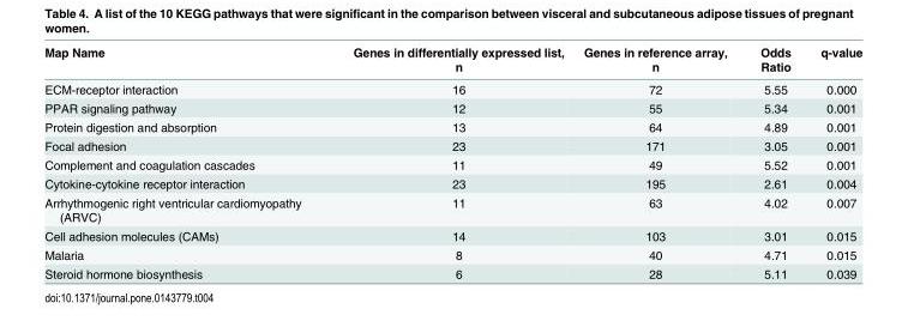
<table><thead><tr><td>Map Name</td><td>Genes in differentially expressed list, n</td><td>Genes in reference array, n</td><td>Odds Ratio</td><td>q-value</td></tr></thead><tbody><tr><td>ECM-receptor interaction</td><td>16</td><td>72</td><td>5.55</td><td>0.000</td></tr><tr><td>PPAR signaling pathway</td><td>12</td><td>55</td><td>5.34</td><td>0.001</td></tr><tr><td>Protein digestion and absorption</td><td>13</td><td>64</td><td>4.89</td><td>0.001</td></tr><tr><td>Focal adhesion</td><td>23</td><td>171</td><td>3.05</td><td>0.001</td></tr><tr><td>Complement and coagulation cascades</td><td>11</td><td>49</td><td>5.52</td><td>0.001</td></tr><tr><td>Cytokine-cytokine receptor interaction</td><td>23</td><td>195</td><td>2.61</td><td>0.004</td></tr><tr><td>Arrhythmogenic right ventricular cardiomyopathy (ARVC)</td><td>11</td><td>63</td><td>4.02</td><td>0.007</td></tr><tr><td>Cell adhesion molecules (CAMs)</td><td>14</td><td>103</td><td>3.01</td><td>0.015</td></tr><tr><td>Malaria</td><td>8</td><td>40</td><td>4.71</td><td>0.015</td></tr><tr><td>Steroid hormone biosynthesis</td><td>6</td><td>28</td><td>5.11</td><td>0.039</td></tr></tbody></table>